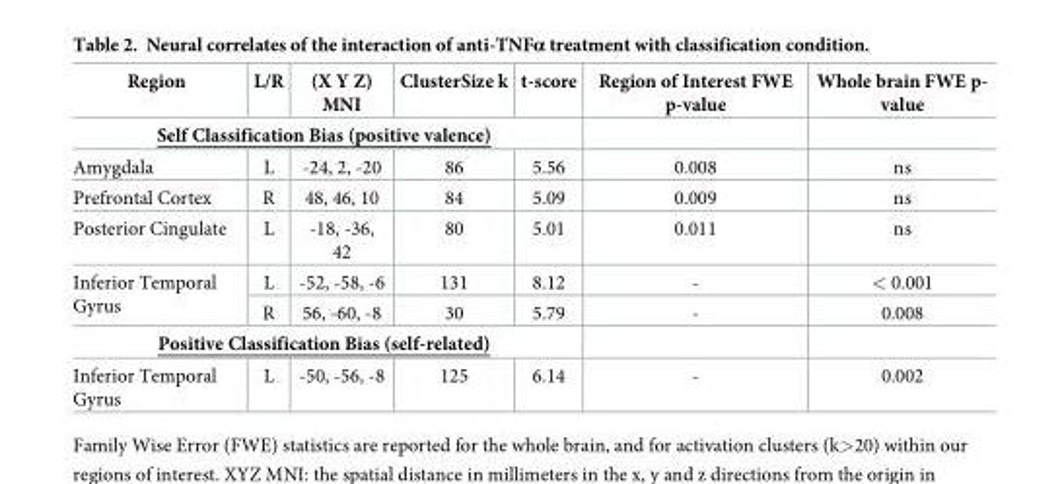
<table><thead><tr><td>Region</td><td>L/R</td><td>(X Y Z) MNI</td><td>ClusterSize k</td><td>t-score</td><td>Region of Interest FWE p-value</td><td>Whole brain FWE p- value</td></tr></thead><tbody><tr><td colspan="7">Self Classification Bias (positive valence)</td></tr><tr><td>Amygdala</td><td>L</td><td>-24, 2, -20</td><td>86</td><td>5.56</td><td>0.008</td><td>ns</td></tr><tr><td>Prefrontal Cortex</td><td>R</td><td>48, 46, 10</td><td>84</td><td>5.09</td><td>0.009</td><td>ns</td></tr><tr><td>Posterior Cingulate</td><td>L</td><td>-18, -36, 42</td><td>80</td><td>5.01</td><td>0.011</td><td>ns</td></tr><tr><td rowspan="2">Inferior Temporal Gyrus</td><td>L</td><td>-52, -58, -6</td><td>131</td><td>8.12</td><td>-</td><td>&lt; 0.001</td></tr><tr><td>R</td><td>56, -60, -8</td><td>30</td><td>5.79</td><td>-</td><td>0.008</td></tr><tr><td colspan="7">Positive Classification Bias (self-related)</td></tr><tr><td>Inferior Temporal Gyrus</td><td>L</td><td>-50, -56, -8</td><td>125</td><td>6.14</td><td>-</td><td>0.002</td></tr></tbody></table>